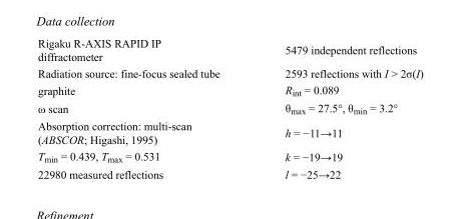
<table><tbody><tr><td>Rigaku R-AXIS RAPID IP diffractometer</td><td>5479 independent reflections</td></tr><tr><td>Radiation source: fine-focus sealed tube</td><td>2593 reflections with I &gt; 2σ(I)</td></tr><tr><td>graphite</td><td>R<sub>int</sub> = 0.089</td></tr><tr><td>ω scan</td><td>θ<sub>max</sub> = 27.5°, θ<sub>min</sub> = 3.2°</td></tr><tr><td>Absorption correction: multi-scan (ABSCOR; Higashi, 1995)</td><td>h = −11→11</td></tr><tr><td>T<sub>min</sub> = 0.439, T<sub>max</sub> = 0.531</td><td>k = −19→19</td></tr><tr><td>22980 measured reflections</td><td>l = −25→22</td></tr></tbody></table>